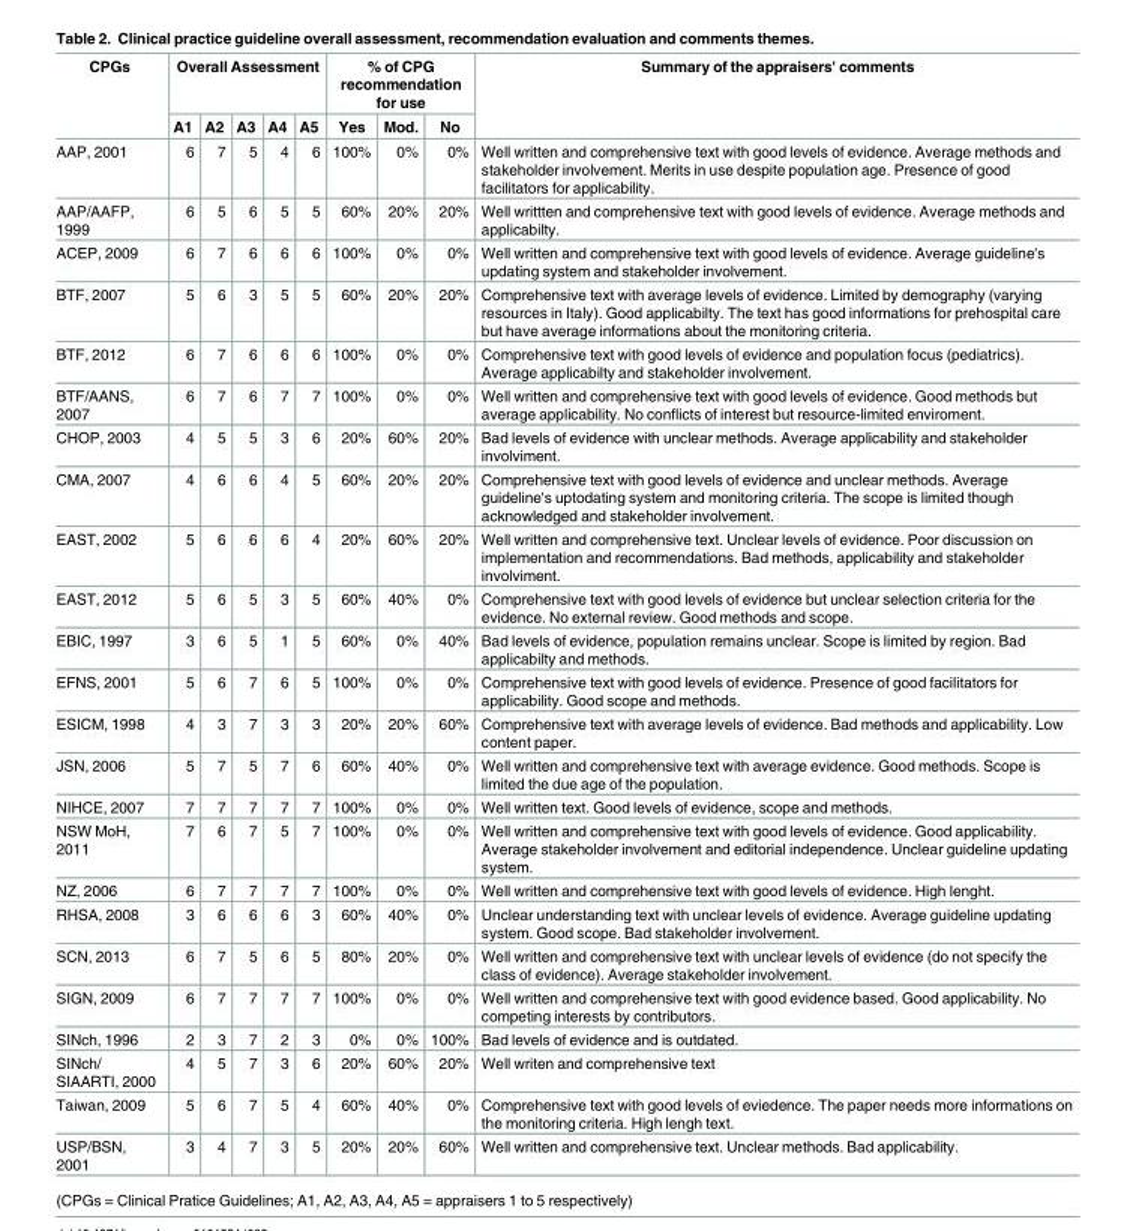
<table><thead><tr><td rowspan="2">CPGs</td><td colspan="5">Overall Assessment</td><td colspan="3">% of CPG recommendation for use</td><td rowspan="2">Summary of the appraisers&#x27; comments</td></tr><tr><td>A1</td><td>A2</td><td>A3</td><td>A4</td><td>A5</td><td>Yes</td><td>Mod.</td><td>No</td></tr></thead><tbody><tr><td>AAP, 2001</td><td>6</td><td>7</td><td>5</td><td>4</td><td>6</td><td>100%</td><td>0%</td><td>0%</td><td>Well written and comprehensive text with good levels of evidence. Average methods and stakeholder involvement. Merits in use despite population age. Presence of good facilitators for applicability.</td></tr><tr><td>AAP/AAFP, 1999</td><td>6</td><td>5</td><td>6</td><td>5</td><td>5</td><td>60%</td><td>20%</td><td>20%</td><td>Well writtten and comprehensive text with good levels of evidence. Average methods and applicabilty.</td></tr><tr><td>ACEP, 2009</td><td>6</td><td>7</td><td>6</td><td>6</td><td>6</td><td>100%</td><td>0%</td><td>0%</td><td>Well written and comprehensive text with good levels of evidence. Average guideline&#x27;s updating system and stakeholder involvement.</td></tr><tr><td>BTF, 2007</td><td>5</td><td>6</td><td>3</td><td>5</td><td>5</td><td>60%</td><td>20%</td><td>20%</td><td>Comprehensive text with average levels of evidence. Limited by demography (varying resources in Italy). Good applicabilty. The text has good informations for prehospital care but have average informations about the monitoring criteria.</td></tr><tr><td>BTF, 2012</td><td>6</td><td>7</td><td>6</td><td>6</td><td>6</td><td>100%</td><td>0%</td><td>0%</td><td>Comprehensive text with good levels of evidence and population focus (pediatrics). Average applicabilty and stakeholder involvement.</td></tr><tr><td>BTF/AANS, 2007</td><td>6</td><td>7</td><td>6</td><td>7</td><td>7</td><td>100%</td><td>0%</td><td>0%</td><td>Well written and comprehensive text with good levels of evidence. Good methods but average applicability. No conflicts of interest but resource-limited enviroment.</td></tr><tr><td>CHOP, 2003</td><td>4</td><td>5</td><td>5</td><td>3</td><td>6</td><td>20%</td><td>60%</td><td>20%</td><td>Bad levels of evidence with unclear methods. Average applicability and stakeholder involviment.</td></tr><tr><td>CMA, 2007</td><td>4</td><td>6</td><td>6</td><td>4</td><td>5</td><td>60%</td><td>20%</td><td>20%</td><td>Comprehensive text with good levels of evidence and unclear methods. Average guideline&#x27;s uptodating system and monitoring criteria. The scope is limited though acknowledged and stakeholder involvement.</td></tr><tr><td>EAST, 2002</td><td>5</td><td>6</td><td>6</td><td>6</td><td>4</td><td>20%</td><td>60%</td><td>20%</td><td>Well written and comprehensive text. Unclear levels of evidence. Poor discussion on implementation and recommendations. Bad methods, applicability and stakeholder involviment.</td></tr><tr><td>EAST, 2012</td><td>5</td><td>6</td><td>5</td><td>3</td><td>5</td><td>60%</td><td>40%</td><td>0%</td><td>Comprehensive text with good levels of evidence but unclear selection criteria for the evidence. No external review. Good methods and scope.</td></tr><tr><td>EBIC, 1997</td><td>3</td><td>6</td><td>5</td><td>1</td><td>5</td><td>60%</td><td>0%</td><td>40%</td><td>Bad levels of evidence, population remains unclear. Scope is limited by region. Bad applicabilty and methods.</td></tr><tr><td>EFNS, 2001</td><td>5</td><td>6</td><td>7</td><td>6</td><td>5</td><td>100%</td><td>0%</td><td>0%</td><td>Comprehensive text with good levels of evidence. Presence of good facilitators for applicability. Good scope and methods.</td></tr><tr><td>ESICM, 1998</td><td>4</td><td>3</td><td>7</td><td>3</td><td>3</td><td>20%</td><td>20%</td><td>60%</td><td>Comprehensive text with average levels of evidence. Bad methods and applicability. Low content paper.</td></tr><tr><td>JSN, 2006</td><td>5</td><td>7</td><td>5</td><td>7</td><td>6</td><td>60%</td><td>40%</td><td>0%</td><td>Well written and comprehensive text with average evidence. Good methods. Scope is limited the due age of the population.</td></tr><tr><td>NIHCE, 2007</td><td>7</td><td>7</td><td>7</td><td>7</td><td>7</td><td>100%</td><td>0%</td><td>0%</td><td>Well written text. Good levels of evidence, scope and methods.</td></tr><tr><td>NSW MoH, 2011</td><td>7</td><td>6</td><td>7</td><td>5</td><td>7</td><td>100%</td><td>0%</td><td>0%</td><td>Well written and comprehensive text with good levels of evidence. Good applicability. Average stakeholder involvement and editorial independence. Unclear guideline updating system.</td></tr><tr><td>NZ, 2006</td><td>6</td><td>7</td><td>7</td><td>7</td><td>7</td><td>100%</td><td>0%</td><td>0%</td><td>Well written and comprehensive text with good levels of evidence. High lenght.</td></tr><tr><td>RHSA, 2008</td><td>3</td><td>6</td><td>6</td><td>6</td><td>3</td><td>60%</td><td>40%</td><td>0%</td><td>Unclear understanding text with unclear levels of evidence. Average guideline updating system. Good scope. Bad stakeholder involvement.</td></tr><tr><td>SCN, 2013</td><td>6</td><td>7</td><td>5</td><td>6</td><td>5</td><td>80%</td><td>20%</td><td>0%</td><td>Well written and comprehensive text with unclear levels of evidence (do not specify the class of evidence). Average stakeholder involvement.</td></tr><tr><td>SIGN, 2009</td><td>6</td><td>7</td><td>7</td><td>7</td><td>7</td><td>100%</td><td>0%</td><td>0%</td><td>Well written and comprehensive text with good evidence based. Good applicability. No competing interests by contributors.</td></tr><tr><td>SINch, 1996</td><td>2</td><td>3</td><td>7</td><td>2</td><td>3</td><td>0%</td><td>0%</td><td>100%</td><td>Bad levels of evidence and is outdated.</td></tr><tr><td>SINch/ SIAARTI, 2000</td><td>4</td><td>5</td><td>7</td><td>3</td><td>6</td><td>20%</td><td>60%</td><td>20%</td><td>Well writen and comprehensive text</td></tr><tr><td>Taiwan, 2009</td><td>5</td><td>6</td><td>7</td><td>5</td><td>4</td><td>60%</td><td>40%</td><td>0%</td><td>Comprehensive text with good levels of eviedence. The paper needs more informations on the monitoring criteria. High lengh text.</td></tr><tr><td>USP/BSN, 2001</td><td>3</td><td>4</td><td>7</td><td>3</td><td>5</td><td>20%</td><td>20%</td><td>60%</td><td>Well written and comprehensive text. Unclear methods. Bad applicability.</td></tr></tbody></table>